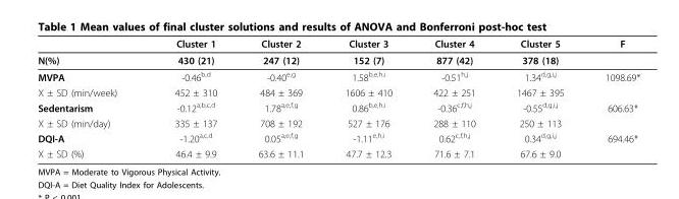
<table><thead><tr><td></td><td>Cluster 1</td><td>Cluster 2</td><td>Cluster 3</td><td>Cluster 4</td><td>Cluster 5</td><td>F</td></tr></thead><tbody><tr><td>N(%)</td><td>430 (21)</td><td>247 (12)</td><td>152 (7)</td><td>877 (42)</td><td>378 (18)</td><td></td></tr><tr><td>MVPA</td><td>-0.46<sup>b,d</sup></td><td>-0.40<sup>e,g</sup></td><td>1.58<sup>b,e,h,i</sup></td><td>-0.51<sup>h,j</sup></td><td>1.34<sup>d,g,i,j</sup></td><td>1098.69*</td></tr><tr><td>X ± SD (min/week)</td><td>452 ± 310</td><td>484 ± 369</td><td>1606 ± 410</td><td>422 ± 251</td><td>1467 ± 395</td><td></td></tr><tr><td>Sedentarism</td><td>-0.12<sup>a,b,c,d</sup></td><td>1.78<sup>a,e,f,g</sup></td><td>0.86<sup>b,e,h,i</sup></td><td>-0.36<sup>c,f,h,j</sup></td><td>-0.55<sup>d,g,i,j</sup></td><td>606.63*</td></tr><tr><td>X ± SD (min/day)</td><td>335 ± 137</td><td>708 ± 192</td><td>527 ± 176</td><td>288 ± 110</td><td>250 ± 113</td><td></td></tr><tr><td>DQI-A</td><td>-1.20<sup>a,c,d</sup></td><td>0.05<sup>a,e,f,g</sup></td><td>-1.11<sup>e,h,i</sup></td><td>0.62<sup>c,f,h,j</sup></td><td>0.34<sup>d,g,i,j</sup></td><td>694.46*</td></tr><tr><td>X ± SD (%)</td><td>46.4 ± 9.9</td><td>63.6 ± 11.1</td><td>47.7 ± 12.3</td><td>71.6 ± 7.1</td><td>67.6 ± 9.0</td><td></td></tr></tbody></table>